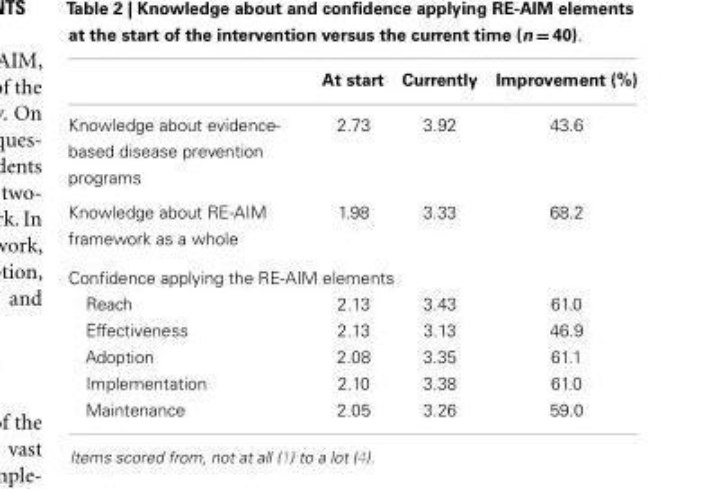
<table><thead><tr><td></td><td>At start</td><td>Currently</td><td>Improvement (%)</td></tr></thead><tbody><tr><td>Knowledge about evidence- based disease prevention programs</td><td>2.73</td><td>3.92</td><td>43.6</td></tr><tr><td>Knowledge about RE-AIM framework as a whole</td><td>1.98</td><td>3.33</td><td>68.2</td></tr><tr><td colspan="4">Confidence applying the RE-AIM elements</td></tr><tr><td>Reach</td><td>2.13</td><td>3.43</td><td>61.0</td></tr><tr><td>Effectiveness</td><td>2.13</td><td>3.13</td><td>46.9</td></tr><tr><td>Adoption</td><td>2.08</td><td>3.35</td><td>61.1</td></tr><tr><td>Implementation</td><td>2.10</td><td>3.38</td><td>61.0</td></tr><tr><td>Maintenance</td><td>2.05</td><td>3.26</td><td>59.0</td></tr></tbody></table>